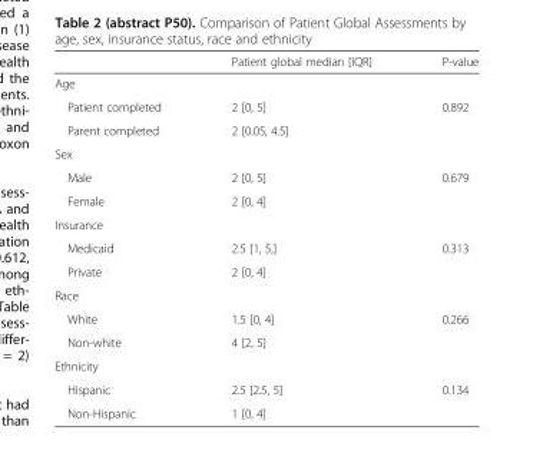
<table><thead><tr><td></td><td>Patient global median [IQR]</td><td>P-value</td></tr></thead><tbody><tr><td colspan="3">Age</td></tr><tr><td>Patient completed</td><td>2 [0, 5]</td><td rowspan="2">0.892</td></tr><tr><td>Parent completed</td><td>2 [0.05, 4.5]</td></tr><tr><td colspan="3">Sex</td></tr><tr><td>Male</td><td>2 [0, 5]</td><td rowspan="2">0.679</td></tr><tr><td>Female</td><td>2 [0, 4]</td></tr><tr><td colspan="3">Insurance</td></tr><tr><td>Medicaid</td><td>2.5 [1, 5,]</td><td rowspan="2">0.313</td></tr><tr><td>Private</td><td>2 [0, 4]</td></tr><tr><td colspan="3">Race</td></tr><tr><td>White</td><td>1.5 [0, 4]</td><td rowspan="2">0.266</td></tr><tr><td>Non-white</td><td>4 [2, 5]</td></tr><tr><td colspan="3">Ethnicity</td></tr><tr><td>Hispanic</td><td>2.5 [2.5, 5]</td><td rowspan="2">0.134</td></tr><tr><td>Non-Hispanic</td><td>1 [0, 4]</td></tr></tbody></table>